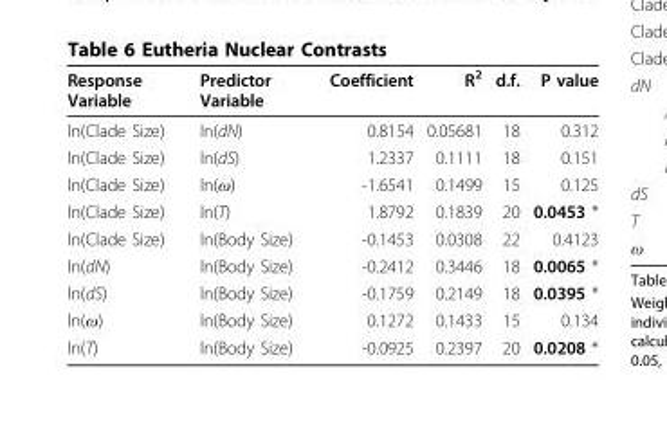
<table><thead><tr><td>Response Variable</td><td>Predictor Variable</td><td>Coefficient</td><td>R<sup>2</sup></td><td>d.f.</td><td>P value</td></tr></thead><tbody><tr><td>ln(Clade Size)</td><td>ln(dN)</td><td>0.8154</td><td>0.05681</td><td>18</td><td>0.312</td></tr><tr><td>ln(Clade Size)</td><td>ln(dS)</td><td>1.2337</td><td>0.1111</td><td>18</td><td>0.151</td></tr><tr><td>ln(Clade Size)</td><td>ln(ω)</td><td>-1.6541</td><td>0.1499</td><td>15</td><td>0.125</td></tr><tr><td>ln(Clade Size)</td><td>ln(T)</td><td>1.8792</td><td>0.1839</td><td>20</td><td>0.0453 *</td></tr><tr><td>ln(Clade Size)</td><td>ln(Body Size)</td><td>-0.1453</td><td>0.0308</td><td>22</td><td>0.4123</td></tr><tr><td>ln(dN)</td><td>ln(Body Size)</td><td>-0.2412</td><td>0.3446</td><td>18</td><td>0.0065 *</td></tr><tr><td>ln(dS)</td><td>ln(Body Size)</td><td>-0.1759</td><td>0.2149</td><td>18</td><td>0.0395 *</td></tr><tr><td>ln(ω)</td><td>ln(Body Size)</td><td>0.1272</td><td>0.1433</td><td>15</td><td>0.134</td></tr><tr><td>ln(T)</td><td>ln(Body Size)</td><td>-0.0925</td><td>0.2397</td><td>20</td><td>0.0208 *</td></tr></tbody></table>